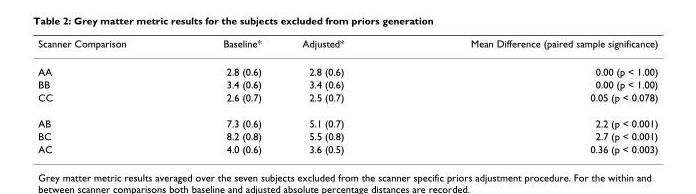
<table><thead><tr><td>Scanner Comparison</td><td>Baseline*</td><td>Adjusted*</td><td>Mean Difference (paired sample significance)</td></tr></thead><tbody><tr><td>AA</td><td>2.8 (0.6)</td><td>2.8 (0.6)</td><td>0.00 (p &lt; 1.00)</td></tr><tr><td>BB</td><td>3.4 (0.6)</td><td>3.4 (0.6)</td><td>0.00 (p &lt; 1.00)</td></tr><tr><td>CC</td><td>2.6 (0.7)</td><td>2.5 (0.7)</td><td>0.05 (p &lt; 0.078)</td></tr><tr><td>AB</td><td>7.3 (0.6)</td><td>5.1 (0.7)</td><td>2.2 (p &lt; 0.001)</td></tr><tr><td>BC</td><td>8.2 (0.8)</td><td>5.5 (0.8)</td><td>2.7 (p &lt; 0.001)</td></tr><tr><td>AC</td><td>4.0 (0.6)</td><td>3.6 (0.5)</td><td>0.36 (p &lt; 0.003)</td></tr></tbody></table>